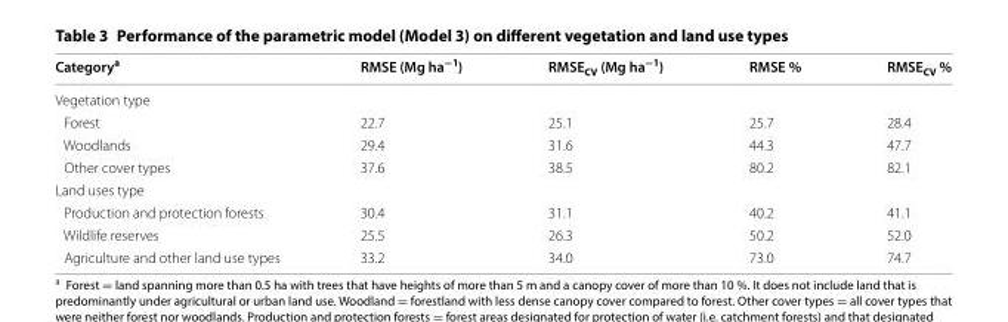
<table><thead><tr><td>Category<sup>a</sup></td><td>RMSE (Mg ha<sup>−1</sup>)</td><td>RMSE<sub>CV</sub> (Mg ha<sup>−1</sup>)</td><td>RMSE %</td><td>RMSE<sub>CV</sub> %</td></tr></thead><tbody><tr><td colspan="5">Vegetation type</td></tr><tr><td>Forest</td><td>22.7</td><td>25.1</td><td>25.7</td><td>28.4</td></tr><tr><td>Woodlands</td><td>29.4</td><td>31.6</td><td>44.3</td><td>47.7</td></tr><tr><td>Other cover types</td><td>37.6</td><td>38.5</td><td>80.2</td><td>82.1</td></tr><tr><td colspan="5">Land uses type</td></tr><tr><td>Production and protection forests</td><td>30.4</td><td>31.1</td><td>40.2</td><td>41.1</td></tr><tr><td>Wildlife reserves</td><td>25.5</td><td>26.3</td><td>50.2</td><td>52.0</td></tr><tr><td>Agriculture and other land use types</td><td>33.2</td><td>34.0</td><td>73.0</td><td>74.7</td></tr></tbody></table>